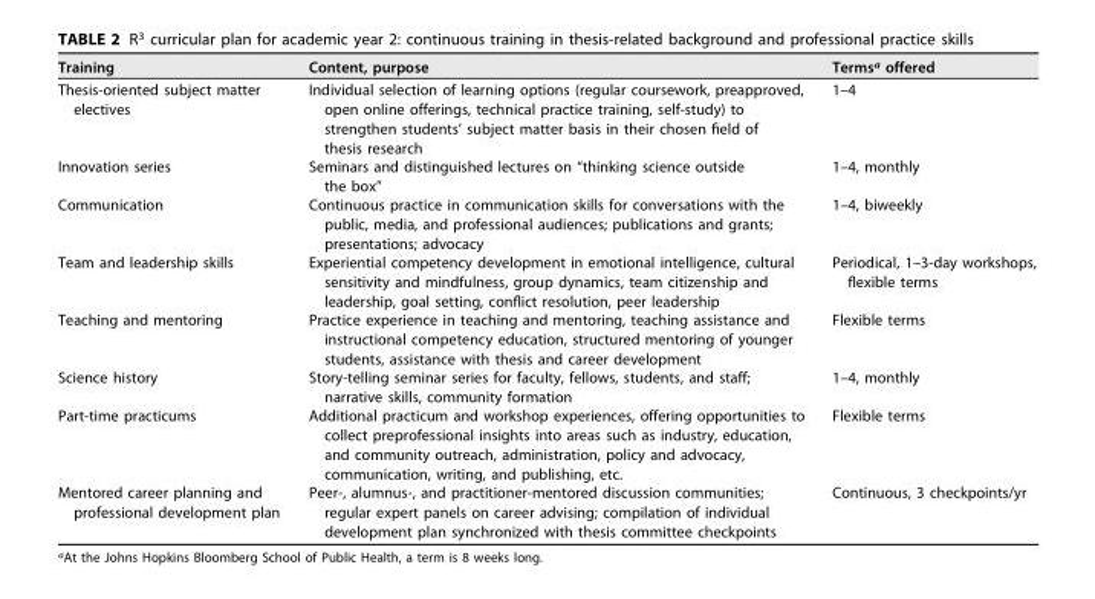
<table><thead><tr><td>Training</td><td>Content, purpose</td><td>Terms<sup>a</sup> offered</td></tr></thead><tbody><tr><td>Thesis-oriented subject matter electives</td><td>Individual selection of learning options (regular coursework, preapproved, open online offerings, technical practice training, self-study) to strengthen students’ subject matter basis in their chosen field of thesis research</td><td>1–4</td></tr><tr><td>Innovation series</td><td>Seminars and distinguished lectures on “thinking science outside the box”</td><td>1–4, monthly</td></tr><tr><td>Communication</td><td>Continuous practice in communication skills for conversations with the public, media, and professional audiences; publications and grants; presentations; advocacy</td><td>1–4, biweekly</td></tr><tr><td>Team and leadership skills</td><td>Experiential competency development in emotional intelligence, cultural sensitivity and mindfulness, group dynamics, team citizenship and leadership, goal setting, conflict resolution, peer leadership</td><td>Periodical, 1–3-day workshops, flexible terms</td></tr><tr><td>Teaching and mentoring</td><td>Practice experience in teaching and mentoring, teaching assistance and instructional competency education, structured mentoring of younger students, assistance with thesis and career development</td><td>Flexible terms</td></tr><tr><td>Science history</td><td>Story-telling seminar series for faculty, fellows, students, and staff; narrative skills, community formation</td><td>1–4, monthly</td></tr><tr><td>Part-time practicums</td><td>Additional practicum and workshop experiences, offering opportunities to collect preprofessional insights into areas such as industry, education, and community outreach, administration, policy and advocacy, communication, writing, and publishing, etc.</td><td>Flexible terms</td></tr><tr><td>Mentored career planning and professional development plan</td><td>Peer-, alumnus-, and practitioner-mentored discussion communities; regular expert panels on career advising; compilation of individual development plan synchronized with thesis committee checkpoints</td><td>Continuous, 3 checkpoints/yr</td></tr></tbody></table>